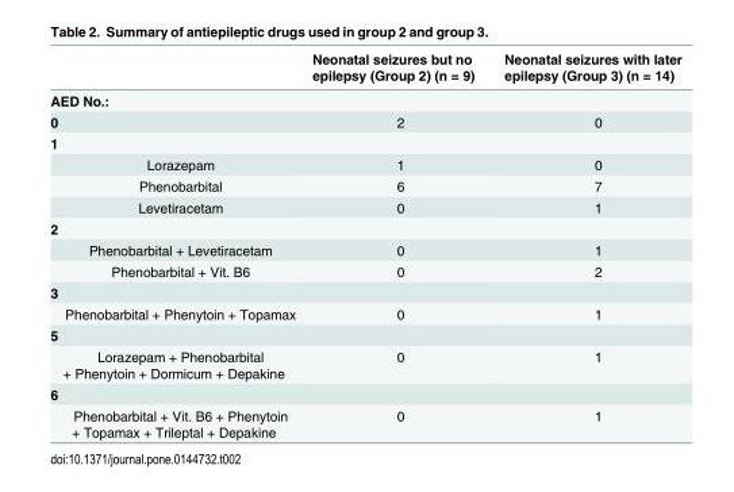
<table><thead><tr><td></td><td>Neonatal seizures but no epilepsy (Group 2) (n = 9)</td><td>Neonatal seizures with later epilepsy (Group 3) (n = 14)</td></tr></thead><tbody><tr><td colspan="3">AED No.:</td></tr><tr><td>0</td><td>2</td><td>0</td></tr><tr><td colspan="3">1</td></tr><tr><td>Lorazepam</td><td>1</td><td>0</td></tr><tr><td>Phenobarbital</td><td>6</td><td>7</td></tr><tr><td>Levetiracetam</td><td>0</td><td>1</td></tr><tr><td colspan="3">2</td></tr><tr><td>Phenobarbital + Levetiracetam</td><td>0</td><td>1</td></tr><tr><td>Phenobarbital + Vit. B6</td><td>0</td><td>2</td></tr><tr><td colspan="3">3</td></tr><tr><td>Phenobarbital + Phenytoin + Topamax</td><td>0</td><td>1</td></tr><tr><td colspan="3">5</td></tr><tr><td>Lorazepam + Phenobarbital + Phenytoin + Dormicum + Depakine</td><td>0</td><td>1</td></tr><tr><td colspan="3">6</td></tr><tr><td>Phenobarbital + Vit. B6 + Phenytoin + Topamax + Trileptal + Depakine</td><td>0</td><td>1</td></tr></tbody></table>